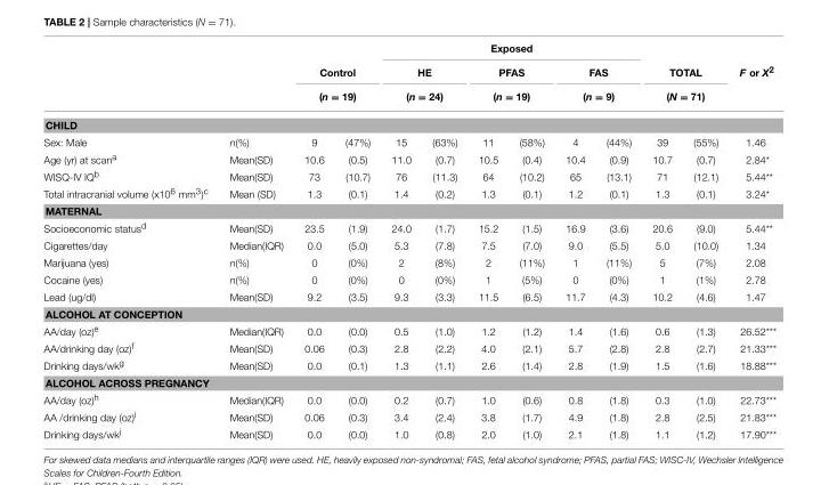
<table><thead><tr><td rowspan="3"></td><td rowspan="3"></td><td></td><td></td><td colspan="6">Exposed</td><td></td><td></td><td rowspan="3">F or X<sup>2</sup></td></tr><tr><td rowspan="2" colspan="2">Control (n = 19)</td><td rowspan="2" colspan="2">HE (n = 24)</td><td rowspan="2" colspan="2">PFAS (n = 19)</td><td rowspan="2" colspan="2">FAS (n = 9)</td><td rowspan="2" colspan="2">TOTAL (N = 71)</td></tr><tr></tr><tr><td colspan="13">CHILD</td></tr><tr><td>Sex: Male</td><td>n(%)</td><td>9</td><td>(47%)</td><td>15</td><td>(63%)</td><td>11</td><td>(58%)</td><td>4</td><td>(44%)</td><td>39</td><td>(55%)</td><td>1.46</td></tr></thead><tbody><tr><td>Age (yr) at scan<sup>a</sup></td><td>Mean(SD)</td><td>10.6</td><td>(0.5)</td><td>11.0</td><td>(0.7)</td><td>10.5</td><td>(0.4)</td><td>10.4</td><td>(0.9)</td><td>10.7</td><td>(0.7)</td><td>2.84*</td></tr><tr><td>WISQ-IV IQ<sup>b</sup></td><td>Mean(SD)</td><td>73</td><td>(10.7)</td><td>76</td><td>(11.3)</td><td>64</td><td>(10.2)</td><td>65</td><td>(13.1)</td><td>71</td><td>(12.1)</td><td>5.44**</td></tr><tr><td>Total intracranial volume (x10<sup>6</sup> mm<sup>3</sup>)<sup>c</sup></td><td>Mean (SD)</td><td>1.3</td><td>(0.1)</td><td>1.4</td><td>(0.2)</td><td>1.3</td><td>(0.1)</td><td>1.2</td><td>(0.1)</td><td>1.3</td><td>(0.1)</td><td>3.24*</td></tr><tr><td colspan="13">MATERNAL</td></tr><tr><td>Socioeconomic status<sup>d</sup></td><td>Mean(SD)</td><td>23.5</td><td>(1.9)</td><td>24.0</td><td>(1.7)</td><td>15.2</td><td>(1.5)</td><td>16.9</td><td>(3.6)</td><td>20.6</td><td>(9.0)</td><td>5.44**</td></tr><tr><td>Cigarettes/day</td><td>Median(IQR)</td><td>0.0</td><td>(5.0)</td><td>5.3</td><td>(7.8)</td><td>7.5</td><td>(7.0)</td><td>9.0</td><td>(5.5)</td><td>5.0</td><td>(10.0)</td><td>1.34</td></tr><tr><td>Marijuana (yes)</td><td>n(%)</td><td>0</td><td>(0%)</td><td>2</td><td>(8%)</td><td>2</td><td>(11%)</td><td>1</td><td>(11%)</td><td>5</td><td>(7%)</td><td>2.08</td></tr><tr><td>Cocaine (yes)</td><td>n(%)</td><td>0</td><td>(0%)</td><td>0</td><td>(0%)</td><td>1</td><td>(5%)</td><td>0</td><td>(0%)</td><td>1</td><td>(1%)</td><td>2.78</td></tr><tr><td>Lead (ug/dl)</td><td>Mean(SD)</td><td>9.2</td><td>(3.5)</td><td>9.3</td><td>(3.3)</td><td>11.5</td><td>(6.5)</td><td>11.7</td><td>(4.3)</td><td>10.2</td><td>(4.6)</td><td>1.47</td></tr><tr><td colspan="13">ALCOHOL AT CONCEPTION</td></tr><tr><td>AA/day (oz)<sup>e</sup></td><td>Median(IQR)</td><td>0.0</td><td>(0.0)</td><td>0.5</td><td>(1.0)</td><td>1.2</td><td>(1.2)</td><td>1.4</td><td>(1.6)</td><td>0.6</td><td>(1.3)</td><td>26.52***</td></tr><tr><td>AA/drinking day (oz)<sup>f</sup></td><td>Mean(SD)</td><td>0.06</td><td>(0.3)</td><td>2.8</td><td>(2.2)</td><td>4.0</td><td>(2.1)</td><td>5.7</td><td>(2.8)</td><td>2.8</td><td>(2.7)</td><td>21.33***</td></tr><tr><td>Drinking days/wk<sup>g</sup></td><td>Mean(SD)</td><td>0.0</td><td>(0.1)</td><td>1.3</td><td>(1.1)</td><td>2.6</td><td>(1.4)</td><td>2.8</td><td>(1.9)</td><td>1.5</td><td>(1.6)</td><td>18.88***</td></tr><tr><td colspan="13">ALCOHOL ACROSS PREGNANCY</td></tr><tr><td>AA/day (oz)<sup>h</sup></td><td>Median(IQR)</td><td>0.0</td><td>(0.0)</td><td>0.2</td><td>(0.7)</td><td>1.0</td><td>(0.6)</td><td>0.8</td><td>(1.8)</td><td>0.3</td><td>(1.0)</td><td>22.73***</td></tr><tr><td>AA /drinking day (oz)<sup>i</sup></td><td>Mean(SD)</td><td>0.06</td><td>(0.3)</td><td>3.4</td><td>(2.4)</td><td>3.8</td><td>(1.7)</td><td>4.9</td><td>(1.8)</td><td>2.8</td><td>(2.5)</td><td>21.83***</td></tr><tr><td>Drinking days/wk<sup>j</sup></td><td>Mean(SD)</td><td>0.0</td><td>(0.0)</td><td>1.0</td><td>(0.8)</td><td>2.0</td><td>(1.0)</td><td>2.1</td><td>(1.8)</td><td>1.1</td><td>(1.2)</td><td>17.90***</td></tr></tbody></table>